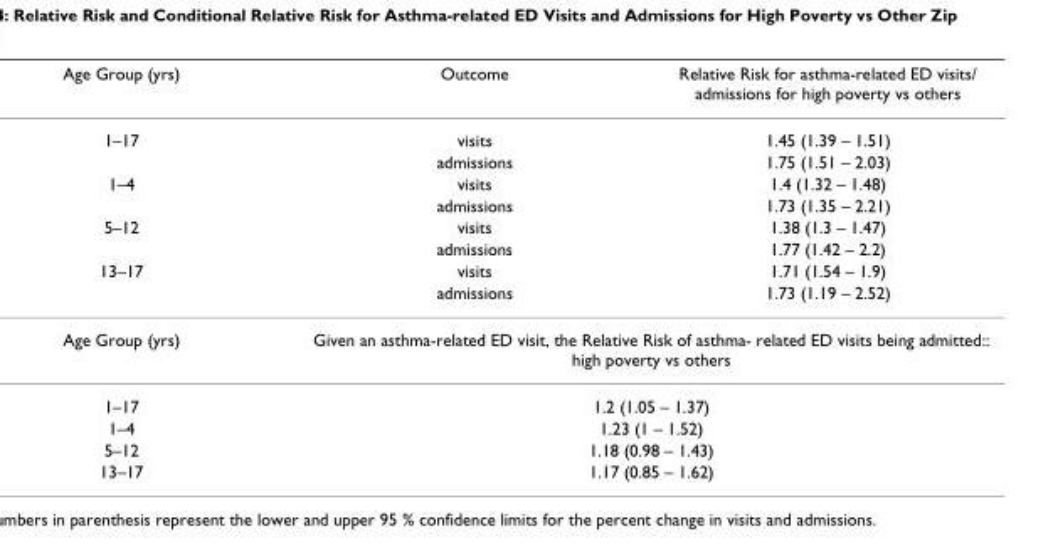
<table><thead><tr><td>Age Group (yrs)</td><td>Outcome</td><td>Relative Risk for asthma-related ED visits/ admissions for high poverty vs others</td></tr></thead><tbody><tr><td rowspan="2">1–17</td><td>visits</td><td>1.45 (1.39 – 1.51)</td></tr><tr><td>admissions</td><td>1.75 (1.51 – 2.03)</td></tr><tr><td rowspan="2">1–4</td><td>visits</td><td>1.4 (1.32 – 1.48)</td></tr><tr><td>admissions</td><td>1.73 (1.35 – 2.21)</td></tr><tr><td rowspan="2">5–12</td><td>visits</td><td>1.38 (1.3 – 1.47)</td></tr><tr><td>admissions</td><td>1.77 (1.42 – 2.2)</td></tr><tr><td rowspan="2">13–17</td><td>visits</td><td>1.71 (1.54 – 1.9)</td></tr><tr><td>admissions</td><td>1.73 (1.19 – 2.52)</td></tr><tr><td>Age Group (yrs)</td><td colspan="2">Given an asthma-related ED visit, the Relative Risk of asthma- related ED visits being admitted:: high poverty vs others</td></tr><tr><td>1–17</td><td colspan="2">1.2 (1.05 – 1.37)</td></tr><tr><td>1–4</td><td colspan="2">1.23 (1 – 1.52)</td></tr><tr><td>5–12</td><td colspan="2">1.18 (0.98 – 1.43)</td></tr><tr><td>13–17</td><td colspan="2">1.17 (0.85 – 1.62)</td></tr></tbody></table>